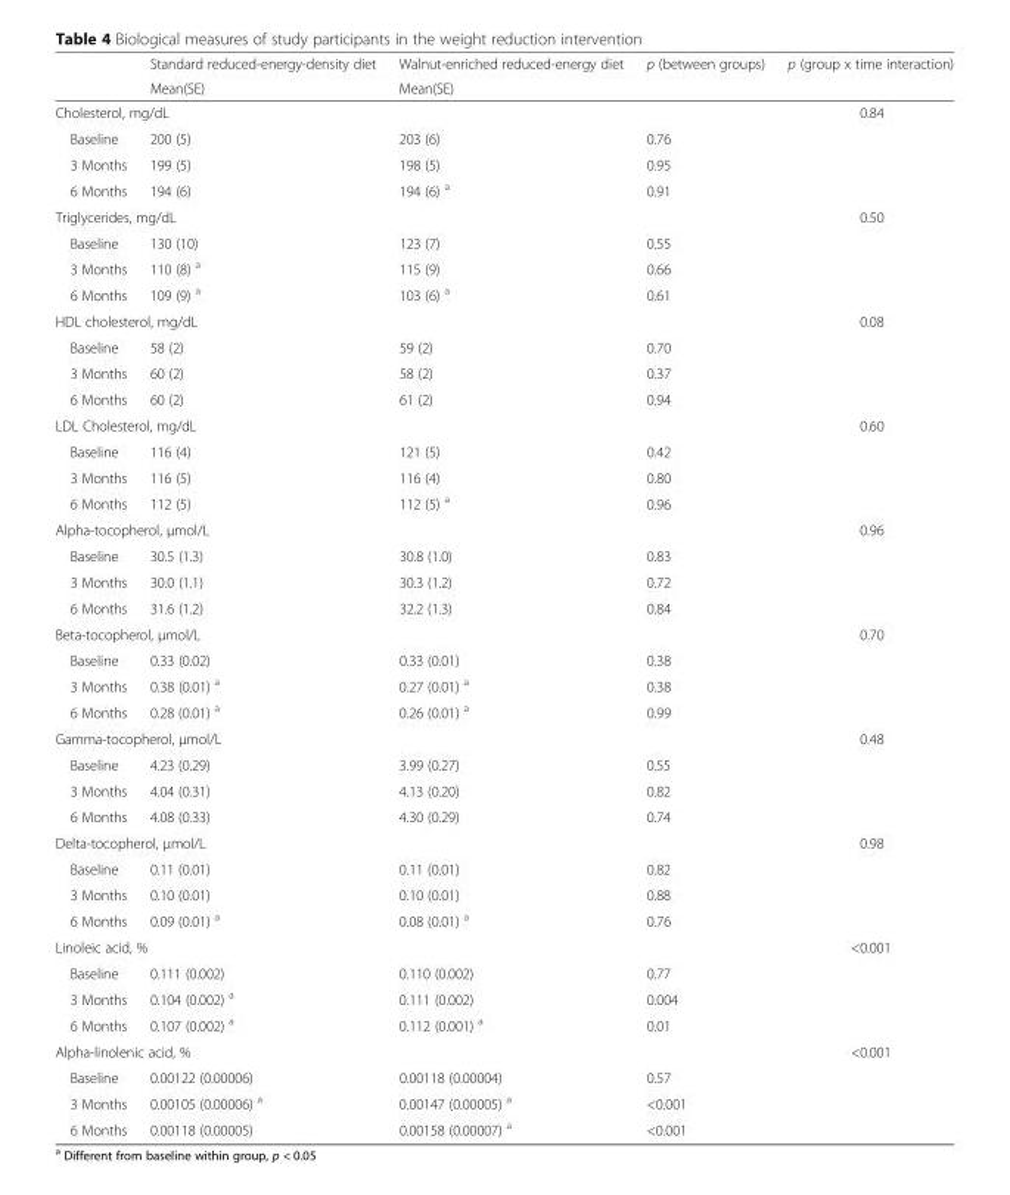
<table><thead><tr><td rowspan="2"></td><td rowspan="2">Standard reduced-energy-density diet Mean(SE)</td><td rowspan="2">Walnut-enriched reduced-energy diet Mean(SE)</td><td rowspan="2">p (between groups)</td><td rowspan="2">p (group x time interaction)</td></tr><tr></tr></thead><tbody><tr><td colspan="4">Cholesterol, mg/dL</td><td rowspan="4">0.84</td></tr><tr><td>Baseline</td><td>200 (5)</td><td>203 (6)</td><td>0.76</td></tr><tr><td>3 Months</td><td>199 (5)</td><td>198 (5)</td><td>0.95</td></tr><tr><td>6 Months</td><td>194 (6)</td><td>194 (6) <sup>a</sup></td><td>0.91</td></tr><tr><td colspan="4">Triglycerides, mg/dL</td><td rowspan="4">0.50</td></tr><tr><td>Baseline</td><td>130 (10)</td><td>123 (7)</td><td>0.55</td></tr><tr><td>3 Months</td><td>110 (8) <sup>a</sup></td><td>115 (9)</td><td>0.66</td></tr><tr><td>6 Months</td><td>109 (9) <sup>a</sup></td><td>103 (6) <sup>a</sup></td><td>0.61</td></tr><tr><td colspan="4">HDL cholesterol, mg/dL</td><td rowspan="4">0.08</td></tr><tr><td>Baseline</td><td>58 (2)</td><td>59 (2)</td><td>0.70</td></tr><tr><td>3 Months</td><td>60 (2)</td><td>58 (2)</td><td>0.37</td></tr><tr><td>6 Months</td><td>60 (2)</td><td>61 (2)</td><td>0.94</td></tr><tr><td colspan="4">LDL Cholesterol, mg/dL</td><td rowspan="4">0.60</td></tr><tr><td>Baseline</td><td>116 (4)</td><td>121 (5)</td><td>0.42</td></tr><tr><td>3 Months</td><td>116 (5)</td><td>116 (4)</td><td>0.80</td></tr><tr><td>6 Months</td><td>112 (5)</td><td>112 (5) <sup>a</sup></td><td>0.96</td></tr><tr><td colspan="4">Alpha-tocopherol, μmol/L</td><td rowspan="4">0.96</td></tr><tr><td>Baseline</td><td>30.5 (1.3)</td><td>30.8 (1.0)</td><td>0.83</td></tr><tr><td>3 Months</td><td>30.0 (1.1)</td><td>30.3 (1.2)</td><td>0.72</td></tr><tr><td>6 Months</td><td>31.6 (1.2)</td><td>32.2 (1.3)</td><td>0.84</td></tr><tr><td colspan="4">Beta-tocopherol, μmol/L</td><td rowspan="4">0.70</td></tr><tr><td>Baseline</td><td>0.33 (0.02)</td><td>0.33 (0.01)</td><td>0.38</td></tr><tr><td>3 Months</td><td>0.38 (0.01) <sup>a</sup></td><td>0.27 (0.01) <sup>a</sup></td><td>0.38</td></tr><tr><td>6 Months</td><td>0.28 (0.01) <sup>a</sup></td><td>0.26 (0.01) <sup>a</sup></td><td>0.99</td></tr><tr><td colspan="4">Gamma-tocopherol, μmol/L</td><td rowspan="4">0.48</td></tr><tr><td>Baseline</td><td>4.23 (0.29)</td><td>3.99 (0.27)</td><td>0.55</td></tr><tr><td>3 Months</td><td>4.04 (0.31)</td><td>4.13 (0.20)</td><td>0.82</td></tr><tr><td>6 Months</td><td>4.08 (0.33)</td><td>4.30 (0.29)</td><td>0.74</td></tr><tr><td colspan="4">Delta-tocopherol, μmol/L</td><td rowspan="4">0.98</td></tr><tr><td>Baseline</td><td>0.11 (0.01)</td><td>0.11 (0.01)</td><td>0.82</td></tr><tr><td>3 Months</td><td>0.10 (0.01)</td><td>0.10 (0.01)</td><td>0.88</td></tr><tr><td>6 Months</td><td>0.09 (0.01) <sup>a</sup></td><td>0.08 (0.01) <sup>a</sup></td><td>0.76</td></tr><tr><td colspan="4">Linoleic acid, %</td><td rowspan="4">&lt;0.001</td></tr><tr><td>Baseline</td><td>0.111 (0.002)</td><td>0.110 (0.002)</td><td>0.77</td></tr><tr><td>3 Months</td><td>0.104 (0.002) <sup>a</sup></td><td>0.111 (0.002)</td><td>0.004</td></tr><tr><td>6 Months</td><td>0.107 (0.002) <sup>a</sup></td><td>0.112 (0.001) <sup>a</sup></td><td>0.01</td></tr><tr><td colspan="4">Alpha-linolenic acid, %</td><td rowspan="4">&lt;0.001</td></tr><tr><td>Baseline</td><td>0.00122 (0.00006)</td><td>0.00118 (0.00004)</td><td>0.57</td></tr><tr><td>3 Months</td><td>0.00105 (0.00006) <sup>a</sup></td><td>0.00147 (0.00005) <sup>a</sup></td><td>&lt;0.001</td></tr><tr><td>6 Months</td><td>0.00118 (0.00005)</td><td>0.00158 (0.00007) <sup>a</sup></td><td>&lt;0.001</td></tr></tbody></table>